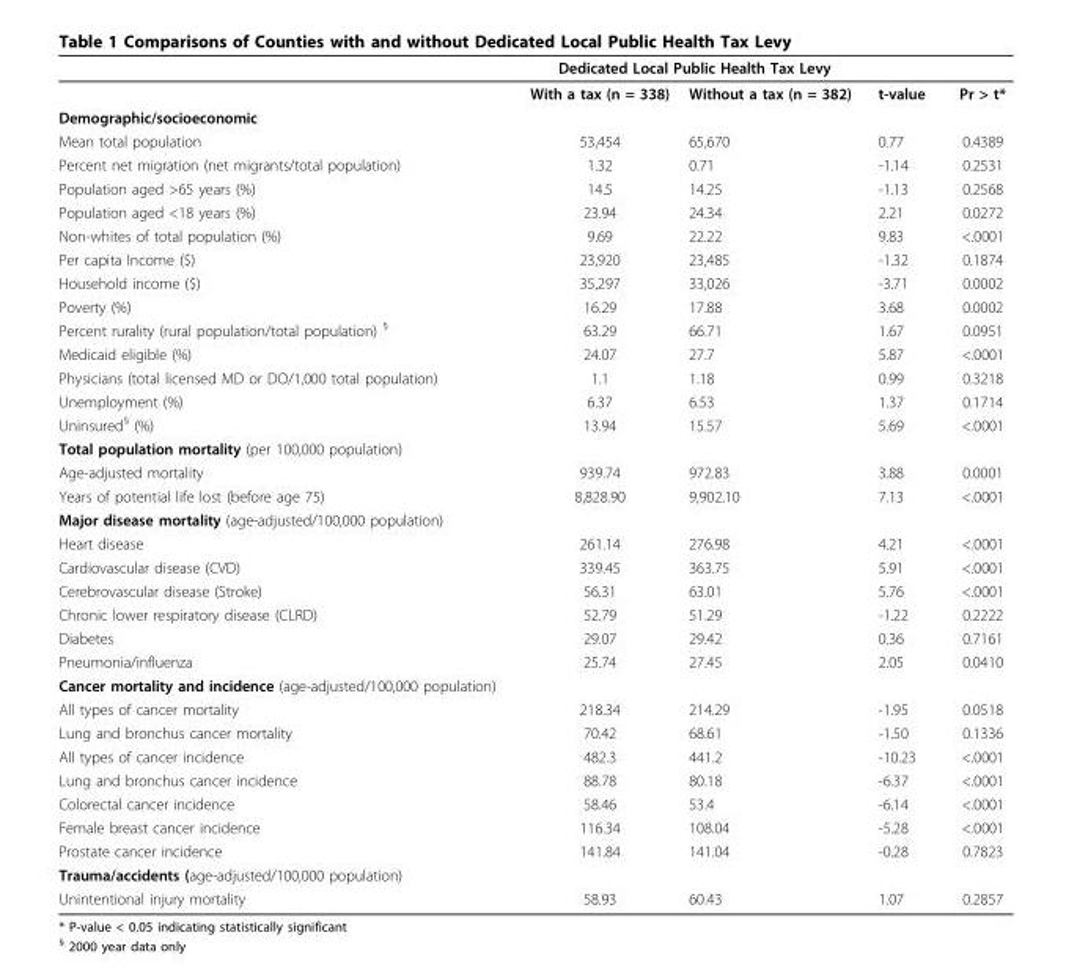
<table><thead><tr><td rowspan="2"></td><td colspan="2">Dedicated Local Public Health Tax Levy</td><td rowspan="2">t-value</td><td rowspan="2">Pr &gt; t*</td></tr><tr><td>With a tax (n = 338)</td><td>Without a tax (n = 382)</td></tr></thead><tbody><tr><td colspan="5">Demographic/socioeconomic</td></tr><tr><td>Mean total population</td><td>53,454</td><td>65,670</td><td>0.77</td><td>0.4389</td></tr><tr><td>Percent net migration (net migrants/total population)</td><td>1.32</td><td>0.71</td><td>-1.14</td><td>0.2531</td></tr><tr><td>Population aged &gt;65 years (%)</td><td>14.5</td><td>14.25</td><td>-1.13</td><td>0.2568</td></tr><tr><td>Population aged &lt;18 years (%)</td><td>23.94</td><td>24.34</td><td>2.21</td><td>0.0272</td></tr><tr><td>Non-whites of total population (%)</td><td>9.69</td><td>22.22</td><td>9.83</td><td>&lt;.0001</td></tr><tr><td>Per capita Income ($)</td><td>23,920</td><td>23,485</td><td>-1.32</td><td>0.1874</td></tr><tr><td>Household income ($)</td><td>35,297</td><td>33,026</td><td>-3.71</td><td>0.0002</td></tr><tr><td>Poverty (%)</td><td>16.29</td><td>17.88</td><td>3.68</td><td>0.0002</td></tr><tr><td>Percent rurality (rural population/total population) <sup>§</sup></td><td>63.29</td><td>66.71</td><td>1.67</td><td>0.0951</td></tr><tr><td>Medicaid eligible (%)</td><td>24.07</td><td>27.7</td><td>5.87</td><td>&lt;.0001</td></tr><tr><td>Physicians (total licensed MD or DO/1,000 total population)</td><td>1.1</td><td>1.18</td><td>0.99</td><td>0.3218</td></tr><tr><td>Unemployment (%)</td><td>6.37</td><td>6.53</td><td>1.37</td><td>0.1714</td></tr><tr><td>Uninsured<sup>§</sup> (%)</td><td>13.94</td><td>15.57</td><td>5.69</td><td>&lt;.0001</td></tr><tr><td colspan="5">Total population mortality (per 100,000 population)</td></tr><tr><td>Age-adjusted mortality</td><td>939.74</td><td>972.83</td><td>3.88</td><td>0.0001</td></tr><tr><td>Years of potential life lost (before age 75)</td><td>8,828.90</td><td>9,902.10</td><td>7.13</td><td>&lt;.0001</td></tr><tr><td colspan="5">Major disease mortality (age-adjusted/100,000 population)</td></tr><tr><td>Heart disease</td><td>261.14</td><td>276.98</td><td>4.21</td><td>&lt;.0001</td></tr><tr><td>Cardiovascular disease (CVD)</td><td>339.45</td><td>363.75</td><td>5.91</td><td>&lt;.0001</td></tr><tr><td>Cerebrovascular disease (Stroke)</td><td>56.31</td><td>63.01</td><td>5.76</td><td>&lt;.0001</td></tr><tr><td>Chronic lower respiratory disease (CLRD)</td><td>52.79</td><td>51.29</td><td>-1.22</td><td>0.2222</td></tr><tr><td>Diabetes</td><td>29.07</td><td>29.42</td><td>0.36</td><td>0.7161</td></tr><tr><td>Pneumonia/influenza</td><td>25.74</td><td>27.45</td><td>2.05</td><td>0.0410</td></tr><tr><td colspan="5">Cancer mortality and incidence (age-adjusted/100,000 population)</td></tr><tr><td>All types of cancer mortality</td><td>218.34</td><td>214.29</td><td>-1.95</td><td>0.0518</td></tr><tr><td>Lung and bronchus cancer mortality</td><td>70.42</td><td>68.61</td><td>-1.50</td><td>0.1336</td></tr><tr><td>All types of cancer incidence</td><td>482.3</td><td>441.2</td><td>-10.23</td><td>&lt;.0001</td></tr><tr><td>Lung and bronchus cancer incidence</td><td>88.78</td><td>80.18</td><td>-6.37</td><td>&lt;.0001</td></tr><tr><td>Colorectal cancer incidence</td><td>58.46</td><td>53.4</td><td>-6.14</td><td>&lt;.0001</td></tr><tr><td>Female breast cancer incidence</td><td>116.34</td><td>108.04</td><td>-5.28</td><td>&lt;.0001</td></tr><tr><td>Prostate cancer incidence</td><td>141.84</td><td>141.04</td><td>-0.28</td><td>0.7823</td></tr><tr><td colspan="5">Trauma/accidents (age-adjusted/100,000 population)</td></tr><tr><td>Unintentional injury mortality</td><td>58.93</td><td>60.43</td><td>1.07</td><td>0.2857</td></tr></tbody></table>